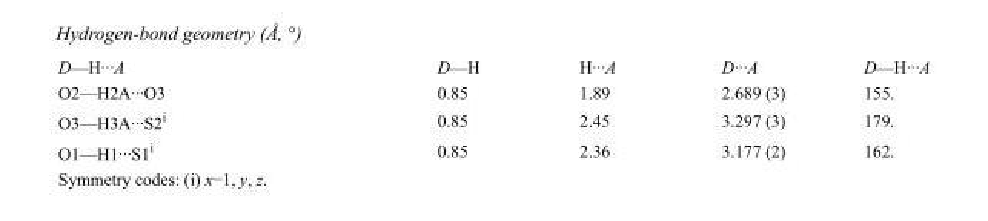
<table><tbody><tr><td>D—H···A</td><td>D—H</td><td>H···A</td><td>D···A</td><td>D—H···A</td></tr><tr><td>O2—H2A···O3</td><td>0.85</td><td>1.89</td><td>2.689 (3)</td><td>155.</td></tr><tr><td>O3—H3A···S2<sup>i</sup></td><td>0.85</td><td>2.45</td><td>3.297 (3)</td><td>179.</td></tr><tr><td>O1—H1···S1<sup>i</sup></td><td>0.85</td><td>2.36</td><td>3.177 (2)</td><td>162.</td></tr></tbody></table>